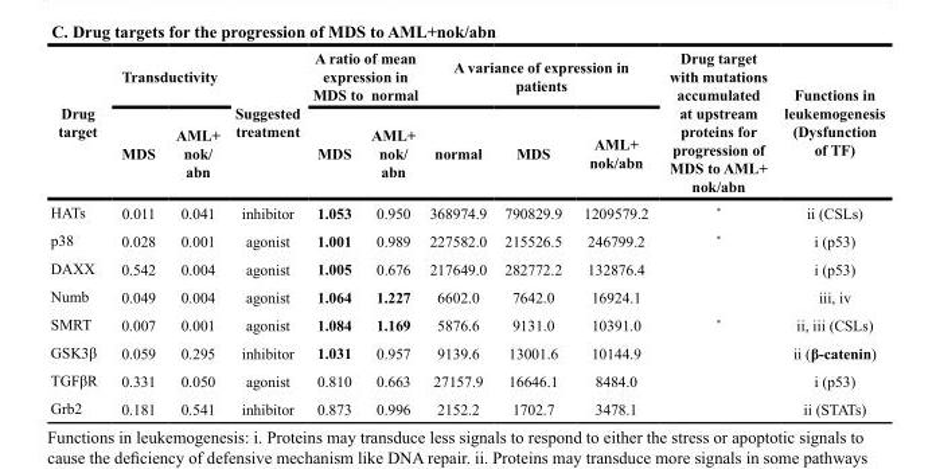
<table><thead><tr><td rowspan="2">Drug target</td><td colspan="2">Transductivity</td><td rowspan="2">Suggested treatment</td><td colspan="2">A ratio of mean expression in MDS to normal</td><td colspan="3">A variance of expression in patients</td><td rowspan="2">Drug target with mutations accumulated at upstream proteins for progression of MDS to AML+ nok/abn</td><td rowspan="2">Functions in leukemogenesis (Dysfunction of TF)</td></tr><tr><td>MDS</td><td>AML+ nok/ abn</td><td>MDS</td><td>AML+ nok/ abn</td><td>normal</td><td>MDS</td><td>AML+ nok/abn</td></tr></thead><tbody><tr><td>HATs</td><td>0.011</td><td>0.041</td><td>inhibitor</td><td>1.053</td><td>0.950</td><td>368974.9</td><td>790829.9</td><td>1209579.2</td><td>*</td><td>ii (CSLs)</td></tr><tr><td>p38</td><td>0.028</td><td>0.001</td><td>agonist</td><td>1.001</td><td>0.989</td><td>227582.0</td><td>215526.5</td><td>246799.2</td><td>*</td><td>i (p53)</td></tr><tr><td>DAXX</td><td>0.542</td><td>0.004</td><td>agonist</td><td>1.005</td><td>0.676</td><td>217649.0</td><td>282772.2</td><td>132876.4</td><td></td><td>i (p53)</td></tr><tr><td>Numb</td><td>0.049</td><td>0.004</td><td>agonist</td><td>1.064</td><td>1.227</td><td>6602.0</td><td>7642.0</td><td>16924.1</td><td></td><td>iii, iv</td></tr><tr><td>SMRT</td><td>0.007</td><td>0.001</td><td>agonist</td><td>1.084</td><td>1.169</td><td>5876.6</td><td>9131.0</td><td>10391.0</td><td>*</td><td>ii, iii (CSLs)</td></tr><tr><td>GSK3β</td><td>0.059</td><td>0.295</td><td>inhibitor</td><td>1.031</td><td>0.957</td><td>9139.6</td><td>13001.6</td><td>10144.9</td><td></td><td>ii (β-catenin)</td></tr><tr><td>TGFβR</td><td>0.331</td><td>0.050</td><td>agonist</td><td>0.810</td><td>0.663</td><td>27157.9</td><td>16646.1</td><td>8484.0</td><td></td><td>i (p53)</td></tr><tr><td>Grb2</td><td>0.181</td><td>0.541</td><td>inhibitor</td><td>0.873</td><td>0.996</td><td>2152.2</td><td>1702.7</td><td>3478.1</td><td></td><td>ii (STATs)</td></tr></tbody></table>